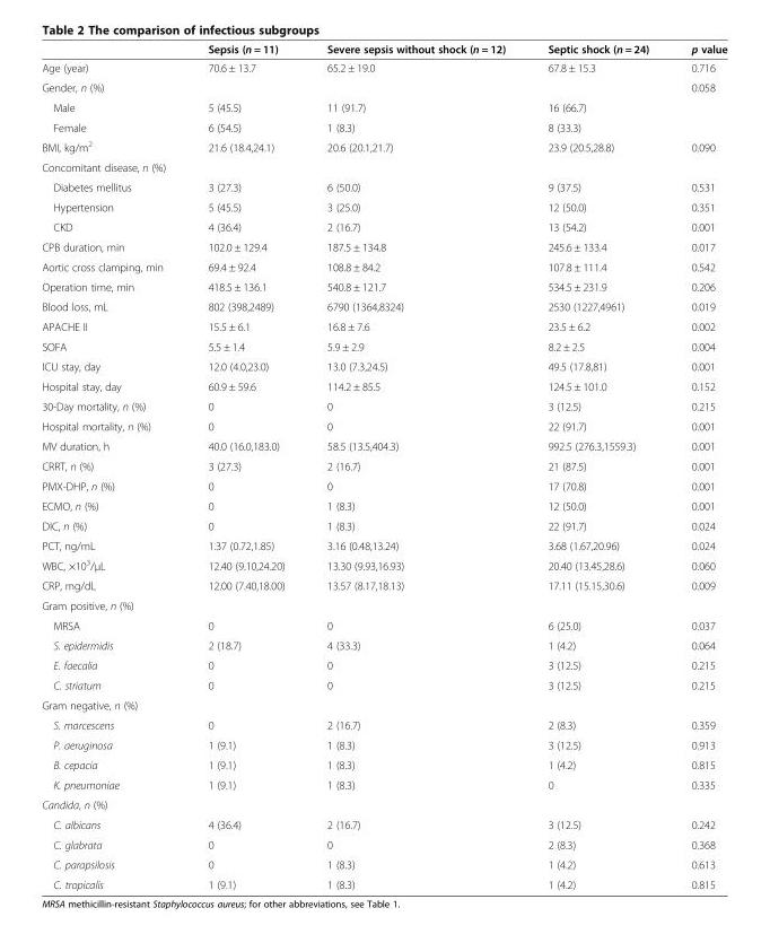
<table><thead><tr><td></td><td>Sepsis (n = 11)</td><td>Severe sepsis without shock (n = 12)</td><td>Septic shock (n = 24)</td><td>p value</td></tr></thead><tbody><tr><td>Age (year)</td><td>70.6 ± 13.7</td><td>65.2 ± 19.0</td><td>67.8 ± 15.3</td><td>0.716</td></tr><tr><td>Gender, n (%)</td><td></td><td></td><td></td><td>0.058</td></tr><tr><td>Male</td><td>5 (45.5)</td><td>11 (91.7)</td><td>16 (66.7)</td><td></td></tr><tr><td>Female</td><td>6 (54.5)</td><td>1 (8.3)</td><td>8 (33.3)</td><td></td></tr><tr><td>BMI, kg/m<sup>2</sup></td><td>21.6 (18.4,24.1)</td><td>20.6 (20.1,21.7)</td><td>23.9 (20.5,28.8)</td><td>0.090</td></tr><tr><td colspan="5">Concomitant disease, n (%)</td></tr><tr><td>Diabetes mellitus</td><td>3 (27.3)</td><td>6 (50.0)</td><td>9 (37.5)</td><td>0.531</td></tr><tr><td>Hypertension</td><td>5 (45.5)</td><td>3 (25.0)</td><td>12 (50.0)</td><td>0.351</td></tr><tr><td>CKD</td><td>4 (36.4)</td><td>2 (16.7)</td><td>13 (54.2)</td><td>0.001</td></tr><tr><td>CPB duration, min</td><td>102.0 ± 129.4</td><td>187.5 ± 134.8</td><td>245.6 ± 133.4</td><td>0.017</td></tr><tr><td>Aortic cross clamping, min</td><td>69.4 ± 92.4</td><td>108.8 ± 84.2</td><td>107.8 ± 111.4</td><td>0.542</td></tr><tr><td>Operation time, min</td><td>418.5 ± 136.1</td><td>540.8 ± 121.7</td><td>534.5 ± 231.9</td><td>0.206</td></tr><tr><td>Blood loss, mL</td><td>802 (398,2489)</td><td>6790 (1364,8324)</td><td>2530 (1227,4961)</td><td>0.019</td></tr><tr><td>APACHE II</td><td>15.5 ± 6.1</td><td>16.8 ± 7.6</td><td>23.5 ± 6.2</td><td>0.002</td></tr><tr><td>SOFA</td><td>5.5 ± 1.4</td><td>5.9 ± 2.9</td><td>8.2 ± 2.5</td><td>0.004</td></tr><tr><td>ICU stay, day</td><td>12.0 (4.0,23.0)</td><td>13.0 (7.3,24.5)</td><td>49.5 (17.8,81)</td><td>0.001</td></tr><tr><td>Hospital stay, day</td><td>60.9 ± 59.6</td><td>114.2 ± 85.5</td><td>124.5 ± 101.0</td><td>0.152</td></tr><tr><td>30-Day mortality, n (%)</td><td>0</td><td>0</td><td>3 (12.5)</td><td>0.215</td></tr><tr><td>Hospital mortality, n (%)</td><td>0</td><td>0</td><td>22 (91.7)</td><td>0.001</td></tr><tr><td>MV duration, h</td><td>40.0 (16.0,183.0)</td><td>58.5 (13.5,404.3)</td><td>992.5 (276.3,1559.3)</td><td>0.001</td></tr><tr><td>CRRT, n (%)</td><td>3 (27.3)</td><td>2 (16.7)</td><td>21 (87.5)</td><td>0.001</td></tr><tr><td>PMX-DHP, n (%)</td><td>0</td><td>0</td><td>17 (70.8)</td><td>0.001</td></tr><tr><td>ECMO, n (%)</td><td>0</td><td>1 (8.3)</td><td>12 (50.0)</td><td>0.001</td></tr><tr><td>DIC, n (%)</td><td>0</td><td>1 (8.3)</td><td>22 (91.7)</td><td>0.024</td></tr><tr><td>PCT, ng/mL</td><td>1.37 (0.72,1.85)</td><td>3.16 (0.48,13.24)</td><td>3.68 (1.67,20.96)</td><td>0.024</td></tr><tr><td>WBC, ×10<sup>3</sup>/μL</td><td>12.40 (9.10,24.20)</td><td>13.30 (9.93,16.93)</td><td>20.40 (13.45,28.6)</td><td>0.060</td></tr><tr><td>CRP, mg/dL</td><td>12.00 (7.40,18.00)</td><td>13.57 (8.17,18.13)</td><td>17.11 (15.15,30.6)</td><td>0.009</td></tr><tr><td colspan="5">Gram positive, n (%)</td></tr><tr><td>MRSA</td><td>0</td><td>0</td><td>6 (25.0)</td><td>0.037</td></tr><tr><td>S. epidermidis</td><td>2 (18.7)</td><td>4 (33.3)</td><td>1 (4.2)</td><td>0.064</td></tr><tr><td>E. faecalia</td><td>0</td><td>0</td><td>3 (12.5)</td><td>0.215</td></tr><tr><td>C. striatum</td><td>0</td><td>0</td><td>3 (12.5)</td><td>0.215</td></tr><tr><td colspan="5">Gram negative, n (%)</td></tr><tr><td>S. marcescens</td><td>0</td><td>2 (16.7)</td><td>2 (8.3)</td><td>0.359</td></tr><tr><td>P. aeruginosa</td><td>1 (9.1)</td><td>1 (8.3)</td><td>3 (12.5)</td><td>0.913</td></tr><tr><td>B. cepacia</td><td>1 (9.1)</td><td>1 (8.3)</td><td>1 (4.2)</td><td>0.815</td></tr><tr><td>K. pneumoniae</td><td>1 (9.1)</td><td>1 (8.3)</td><td>0</td><td>0.335</td></tr><tr><td colspan="5">Candida, n (%)</td></tr><tr><td>C. albicans</td><td>4 (36.4)</td><td>2 (16.7)</td><td>3 (12.5)</td><td>0.242</td></tr><tr><td>C. glabrata</td><td>0</td><td>0</td><td>2 (8.3)</td><td>0.368</td></tr><tr><td>C. parapsilosis</td><td>0</td><td>1 (8.3)</td><td>1 (4.2)</td><td>0.613</td></tr><tr><td>C. tropicalis</td><td>1 (9.1)</td><td>1 (8.3)</td><td>1 (4.2)</td><td>0.815</td></tr></tbody></table>